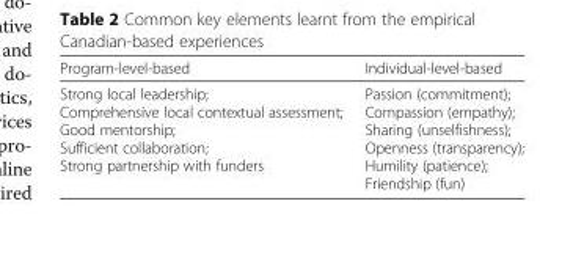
<table><thead><tr><td>Program-level-based</td><td>Individual-level-based</td></tr></thead><tbody><tr><td>Strong local leadership; Comprehensive local contextual assessment; Good mentorship; Sufficient collaboration; Strong partnership with funders</td><td>Passion (commitment); Compassion (empathy); Sharing (unselfishness); Openness (transparency); Humility (patience); Friendship (fun)</td></tr></tbody></table>